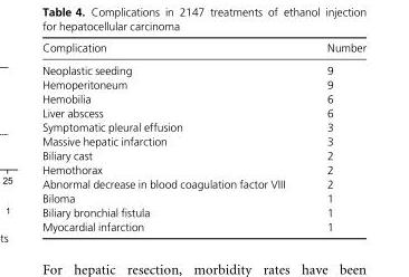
<table><thead><tr><td>Complication</td><td>Number</td></tr></thead><tbody><tr><td>Neoplastic seeding</td><td>9</td></tr><tr><td>Hemoperitoneum</td><td>9</td></tr><tr><td>Hemobilia</td><td>6</td></tr><tr><td>Liver abscess</td><td>6</td></tr><tr><td>Symptomatic pleural effusion</td><td>3</td></tr><tr><td>Massive hepatic infarction</td><td>3</td></tr><tr><td>Biliary cast</td><td>2</td></tr><tr><td>Hemothorax</td><td>2</td></tr><tr><td>Abnormal decrease in blood coagulation factor VIII</td><td>2</td></tr><tr><td>Biloma</td><td>1</td></tr><tr><td>Biliary bronchial fistula</td><td>1</td></tr><tr><td>Myocardial infarction</td><td>1</td></tr></tbody></table>